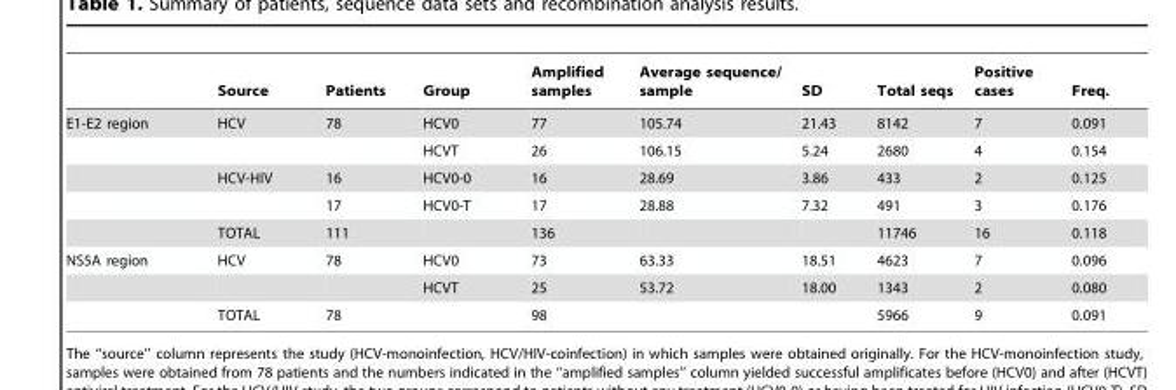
<table><thead><tr><td></td><td>Source</td><td>Patients</td><td>Group</td><td>Amplified samples</td><td>Average sequence/ sample</td><td>SD</td><td>Total seqs</td><td>Positive cases</td><td>Freq.</td></tr></thead><tbody><tr><td rowspan="5">E1-E2 region</td><td>HCV</td><td>78</td><td>HCV0</td><td>77</td><td>105.74</td><td>21.43</td><td>8142</td><td>7</td><td>0.091</td></tr><tr><td></td><td></td><td>HCVT</td><td>26</td><td>106.15</td><td>5.24</td><td>2680</td><td>4</td><td>0.154</td></tr><tr><td>HCV-HIV</td><td>16</td><td>HCV0-0</td><td>16</td><td>28.69</td><td>3.86</td><td>433</td><td>2</td><td>0.125</td></tr><tr><td></td><td>17</td><td>HCV0-T</td><td>17</td><td>28.88</td><td>7.32</td><td>491</td><td>3</td><td>0.176</td></tr><tr><td>TOTAL</td><td>111</td><td></td><td>136</td><td></td><td></td><td>11746</td><td>16</td><td>0.118</td></tr><tr><td rowspan="3">NS5A region</td><td>HCV</td><td>78</td><td>HCV0</td><td>73</td><td>63.33</td><td>18.51</td><td>4623</td><td>7</td><td>0.096</td></tr><tr><td></td><td></td><td>HCVT</td><td>25</td><td>53.72</td><td>18.00</td><td>1343</td><td>2</td><td>0.080</td></tr><tr><td>TOTAL</td><td>78</td><td></td><td>98</td><td></td><td></td><td>5966</td><td>9</td><td>0.091</td></tr></tbody></table>